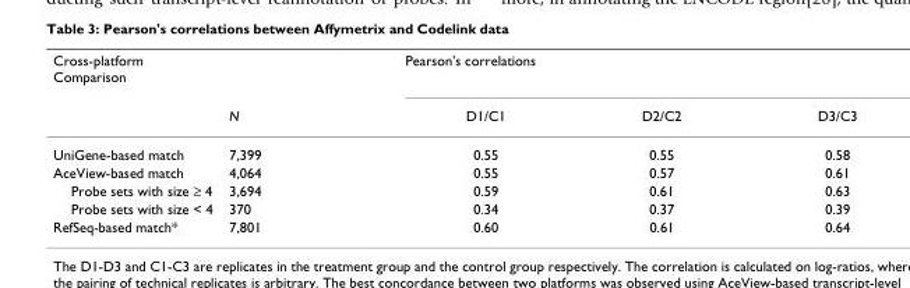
<table><thead><tr><td rowspan="2">Cross-platform Comparison</td><td rowspan="2">N</td><td colspan="3">Pearson&#x27;s correlations</td></tr><tr><td>D1/C1</td><td>D2/C2</td><td>D3/C3</td></tr></thead><tbody><tr><td>UniGene-based match</td><td>7,399</td><td>0.55</td><td>0.55</td><td>0.58</td></tr><tr><td>AceView-based match</td><td>4,064</td><td>0.55</td><td>0.57</td><td>0.61</td></tr><tr><td>Probe sets with size ≥ 4</td><td>3,694</td><td>0.59</td><td>0.61</td><td>0.63</td></tr><tr><td>Probe sets with size &lt; 4</td><td>370</td><td>0.34</td><td>0.37</td><td>0.39</td></tr><tr><td>RefSeq-based match*</td><td>7,801</td><td>0.60</td><td>0.61</td><td>0.64</td></tr></tbody></table>